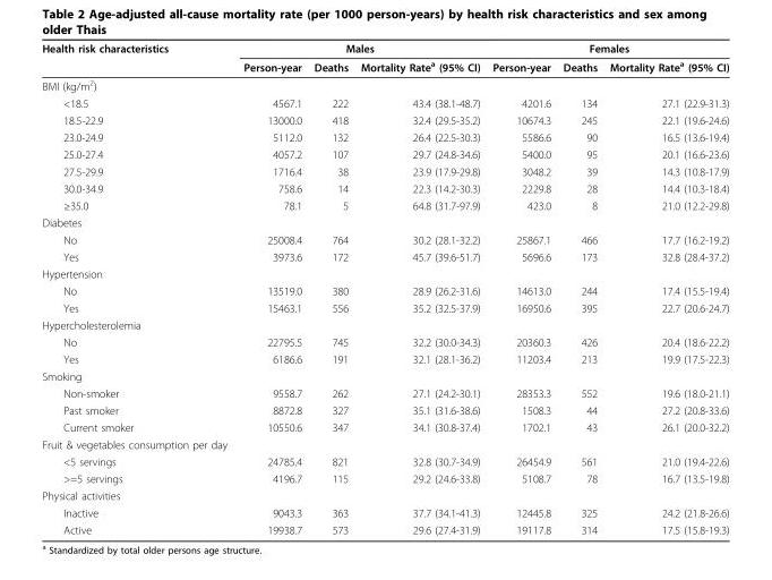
<table><thead><tr><td rowspan="2">Health risk characteristics</td><td colspan="3">Males</td><td colspan="3">Females</td></tr><tr><td>Person-year</td><td>Deaths</td><td>Mortality Rate<sup>a</sup> (95% CI)</td><td>Person-year</td><td>Deaths</td><td>Mortality Rate<sup>a</sup> (95% CI)</td></tr></thead><tbody><tr><td colspan="7">BMI (kg/m<sup>2</sup>)</td></tr><tr><td>&lt;18.5</td><td>4567.1</td><td>222</td><td>43.4 (38.1-48.7)</td><td>4201.6</td><td>134</td><td>27.1 (22.9-31.3)</td></tr><tr><td>18.5-22.9</td><td>13000.0</td><td>418</td><td>32.4 (29.5-35.2)</td><td>10674.3</td><td>245</td><td>22.1 (19.6-24.6)</td></tr><tr><td>23.0-24.9</td><td>5112.0</td><td>132</td><td>26.4 (22.5-30.3)</td><td>5586.6</td><td>90</td><td>16.5 (13.6-19.4)</td></tr><tr><td>25.0-27.4</td><td>4057.2</td><td>107</td><td>29.7 (24.8-34.6)</td><td>5400.0</td><td>95</td><td>20.1 (16.6-23.6)</td></tr><tr><td>27.5-29.9</td><td>1716.4</td><td>38</td><td>23.9 (17.9-29.8)</td><td>3048.2</td><td>39</td><td>14.3 (10.8-17.9)</td></tr><tr><td>30.0-34.9</td><td>758.6</td><td>14</td><td>22.3 (14.2-30.3)</td><td>2229.8</td><td>28</td><td>14.4 (10.3-18.4)</td></tr><tr><td>≥35.0</td><td>78.1</td><td>5</td><td>64.8 (31.7-97.9)</td><td>423.0</td><td>8</td><td>21.0 (12.2-29.8)</td></tr><tr><td colspan="7">Diabetes</td></tr><tr><td>No</td><td>25008.4</td><td>764</td><td>30.2 (28.1-32.2)</td><td>25867.1</td><td>466</td><td>17.7 (16.2-19.2)</td></tr><tr><td>Yes</td><td>3973.6</td><td>172</td><td>45.7 (39.6-51.7)</td><td>5696.6</td><td>173</td><td>32.8 (28.4-37.2)</td></tr><tr><td colspan="7">Hypertension</td></tr><tr><td>No</td><td>13519.0</td><td>380</td><td>28.9 (26.2-31.6)</td><td>14613.0</td><td>244</td><td>17.4 (15.5-19.4)</td></tr><tr><td>Yes</td><td>15463.1</td><td>556</td><td>35.2 (32.5-37.9)</td><td>16950.6</td><td>395</td><td>22.7 (20.6-24.7)</td></tr><tr><td colspan="7">Hypercholesterolemia</td></tr><tr><td>No</td><td>22795.5</td><td>745</td><td>32.2 (30.0-34.3)</td><td>20360.3</td><td>426</td><td>20.4 (18.6-22.2)</td></tr><tr><td>Yes</td><td>6186.6</td><td>191</td><td>32.1 (28.1-36.2)</td><td>11203.4</td><td>213</td><td>19.9 (17.5-22.3)</td></tr><tr><td colspan="7">Smoking</td></tr><tr><td>Non-smoker</td><td>9558.7</td><td>262</td><td>27.1 (24.2-30.1)</td><td>28353.3</td><td>552</td><td>19.6 (18.0-21.1)</td></tr><tr><td>Past smoker</td><td>8872.8</td><td>327</td><td>35.1 (31.6-38.6)</td><td>1508.3</td><td>44</td><td>27.2 (20.8-33.6)</td></tr><tr><td>Current smoker</td><td>10550.6</td><td>347</td><td>34.1 (30.8-37.4)</td><td>1702.1</td><td>43</td><td>26.1 (20.0-32.2)</td></tr><tr><td colspan="7">Fruit &amp; vegetables consumption per day</td></tr><tr><td>&lt;5 servings</td><td>24785.4</td><td>821</td><td>32.8 (30.7-34.9)</td><td>26454.9</td><td>561</td><td>21.0 (19.4-22.6)</td></tr><tr><td>&gt;=5 servings</td><td>4196.7</td><td>115</td><td>29.2 (24.6-33.8)</td><td>5108.7</td><td>78</td><td>16.7 (13.5-19.8)</td></tr><tr><td colspan="7">Physical activities</td></tr><tr><td>Inactive</td><td>9043.3</td><td>363</td><td>37.7 (34.1-41.3)</td><td>12445.8</td><td>325</td><td>24.2 (21.8-26.6)</td></tr><tr><td>Active</td><td>19938.7</td><td>573</td><td>29.6 (27.4-31.9)</td><td>19117.8</td><td>314</td><td>17.5 (15.8-19.3)</td></tr></tbody></table>